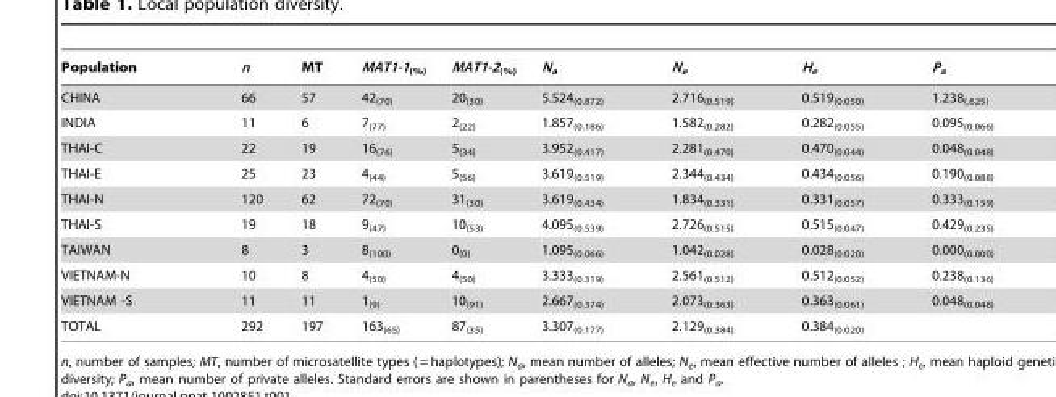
<table><thead><tr><td>Population</td><td>n</td><td>MT</td><td>MAT1-1<sub>(%)</sub></td><td>MAT1-2<sub>(%)</sub></td><td>N<sub>a</sub></td><td>N<sub>e</sub></td><td>H<sub>e</sub></td><td>P<sub>a</sub></td></tr></thead><tbody><tr><td>CHINA</td><td>66</td><td>57</td><td>42<sub>(70)</sub></td><td>20<sub>(30)</sub></td><td>5.524<sub>(0.872)</sub></td><td>2.716<sub>(0.519)</sub></td><td>0.519<sub>(0.050)</sub></td><td>1.238<sub>(.625)</sub></td></tr><tr><td>INDIA</td><td>11</td><td>6</td><td>7<sub>(77)</sub></td><td>2<sub>(22)</sub></td><td>1.857<sub>(0.186)</sub></td><td>1.582<sub>(0.282)</sub></td><td>0.282<sub>(0.055)</sub></td><td>0.095<sub>(0.066)</sub></td></tr><tr><td>THAI-C</td><td>22</td><td>19</td><td>16<sub>(76)</sub></td><td>5<sub>(34)</sub></td><td>3.952<sub>(0.417)</sub></td><td>2.281<sub>(0.470)</sub></td><td>0.470<sub>(0.044)</sub></td><td>0.048<sub>(0.048)</sub></td></tr><tr><td>THAI-E</td><td>25</td><td>23</td><td>4<sub>(44)</sub></td><td>5<sub>(56)</sub></td><td>3.619<sub>(0.519)</sub></td><td>2.344<sub>(0.434)</sub></td><td>0.434<sub>(0.056)</sub></td><td>0.190<sub>(0.088)</sub></td></tr><tr><td>THAI-N</td><td>120</td><td>62</td><td>72<sub>(70)</sub></td><td>31<sub>(30)</sub></td><td>3.619<sub>(0.434)</sub></td><td>1.834<sub>(0.331)</sub></td><td>0.331<sub>(0.057)</sub></td><td>0.333<sub>(0.159)</sub></td></tr><tr><td>THAI-S</td><td>19</td><td>18</td><td>9<sub>(47)</sub></td><td>10<sub>(53)</sub></td><td>4.095<sub>(0.539)</sub></td><td>2.726<sub>(0.515)</sub></td><td>0.515<sub>(0.047)</sub></td><td>0.429<sub>(0.235)</sub></td></tr><tr><td>TAIWAN</td><td>8</td><td>3</td><td>8<sub>(100)</sub></td><td>0<sub>(0)</sub></td><td>1.095<sub>(0.066)</sub></td><td>1.042<sub>(0.028)</sub></td><td>0.028<sub>(0.020)</sub></td><td>0.000<sub>(0.000)</sub></td></tr><tr><td>VIETNAM-N</td><td>10</td><td>8</td><td>4<sub>(50)</sub></td><td>4<sub>(50)</sub></td><td>3.333<sub>(0.319)</sub></td><td>2.561<sub>(0.512)</sub></td><td>0.512<sub>(0.052)</sub></td><td>0.238<sub>(0.136)</sub></td></tr><tr><td>VIETNAM -S</td><td>11</td><td>11</td><td>1<sub>(9)</sub></td><td>10<sub>(91)</sub></td><td>2.667<sub>(0.374)</sub></td><td>2.073<sub>(0.363)</sub></td><td>0.363<sub>(0.061)</sub></td><td>0.048<sub>(0.048)</sub></td></tr><tr><td>TOTAL</td><td>292</td><td>197</td><td>163<sub>(65)</sub></td><td>87<sub>(35)</sub></td><td>3.307<sub>(0.177)</sub></td><td>2.129<sub>(0.384)</sub></td><td>0.384<sub>(0.020)</sub></td><td></td></tr></tbody></table>